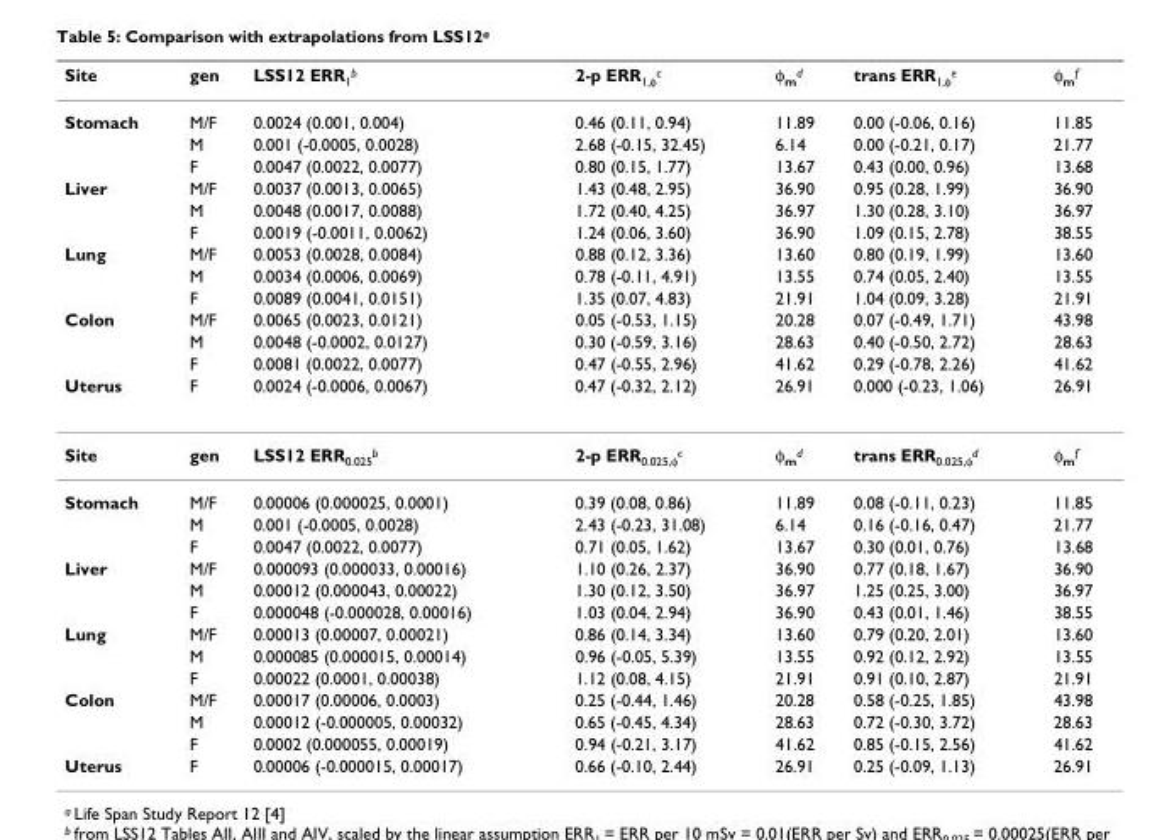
<table><thead><tr><td>Site</td><td>gen</td><td>LSS12 ERR<sub>1</sub><sup>b</sup></td><td>2-p ERR<sub>1,φ</sub><sup>c</sup></td><td>φ<sub>m</sub><sup>d</sup></td><td>trans ERR<sub>1,φ</sub><sup>e</sup></td><td>φ<sub>m</sub><sup>f</sup></td></tr></thead><tbody><tr><td rowspan="3">Stomach</td><td>M/F</td><td>0.0024 (0.001, 0.004)</td><td>0.46 (0.11, 0.94)</td><td>11.89</td><td>0.00 (-0.06, 0.16)</td><td>11.85</td></tr><tr><td>M</td><td>0.001 (-0.0005, 0.0028)</td><td>2.68 (-0.15, 32.45)</td><td>6.14</td><td>0.00 (-0.21, 0.17)</td><td>21.77</td></tr><tr><td>F</td><td>0.0047 (0.0022, 0.0077)</td><td>0.80 (0.15, 1.77)</td><td>13.67</td><td>0.43 (0.00, 0.96)</td><td>13.68</td></tr><tr><td rowspan="3">Liver</td><td>M/F</td><td>0.0037 (0.0013, 0.0065)</td><td>1.43 (0.48, 2.95)</td><td>36.90</td><td>0.95 (0.28, 1.99)</td><td>36.90</td></tr><tr><td>M</td><td>0.0048 (0.0017, 0.0088)</td><td>1.72 (0.40, 4.25)</td><td>36.97</td><td>1.30 (0.28, 3.10)</td><td>36.97</td></tr><tr><td>F</td><td>0.0019 (-0.0011, 0.0062)</td><td>1.24 (0.06, 3.60)</td><td>36.90</td><td>1.09 (0.15, 2.78)</td><td>38.55</td></tr><tr><td rowspan="3">Lung</td><td>M/F</td><td>0.0053 (0.0028, 0.0084)</td><td>0.88 (0.12, 3.36)</td><td>13.60</td><td>0.80 (0.19, 1.99)</td><td>13.60</td></tr><tr><td>M</td><td>0.0034 (0.0006, 0.0069)</td><td>0.78 (-0.11, 4.91)</td><td>13.55</td><td>0.74 (0.05, 2.40)</td><td>13.55</td></tr><tr><td>F</td><td>0.0089 (0.0041, 0.0151)</td><td>1.35 (0.07, 4.83)</td><td>21.91</td><td>1.04 (0.09, 3.28)</td><td>21.91</td></tr><tr><td rowspan="3">Colon</td><td>M/F</td><td>0.0065 (0.0023, 0.0121)</td><td>0.05 (-0.53, 1.15)</td><td>20.28</td><td>0.07 (-0.49, 1.71)</td><td>43.98</td></tr><tr><td>M</td><td>0.0048 (-0.0002, 0.0127)</td><td>0.30 (-0.59, 3.16)</td><td>28.63</td><td>0.40 (-0.50, 2.72)</td><td>28.63</td></tr><tr><td>F</td><td>0.0081 (0.0022, 0.0077)</td><td>0.47 (-0.55, 2.96)</td><td>41.62</td><td>0.29 (-0.78, 2.26)</td><td>41.62</td></tr><tr><td>Uterus</td><td>F</td><td>0.0024 (-0.0006, 0.0067)</td><td>0.47 (-0.32, 2.12)</td><td>26.91</td><td>0.000 (-0.23, 1.06)</td><td>26.91</td></tr><tr><td>Site</td><td>gen</td><td>LSS12 ERR<sub>0.025</sub><sup>b</sup></td><td>2-p ERR<sub>0.025,φ</sub><sup>c</sup></td><td>φ<sub>m</sub><sup>d</sup></td><td>trans ERR<sub>0.025,φ</sub><sup>d</sup></td><td>φ<sub>m</sub><sup>f</sup></td></tr><tr><td rowspan="3">Stomach</td><td>M/F</td><td>0.00006 (0.000025, 0.0001)</td><td>0.39 (0.08, 0.86)</td><td>11.89</td><td>0.08 (-0.11, 0.23)</td><td>11.85</td></tr><tr><td>M</td><td>0.001 (-0.0005, 0.0028)</td><td>2.43 (-0.23, 31.08)</td><td>6.14</td><td>0.16 (-0.16, 0.47)</td><td>21.77</td></tr><tr><td>F</td><td>0.0047 (0.0022, 0.0077)</td><td>0.71 (0.05, 1.62)</td><td>13.67</td><td>0.30 (0.01, 0.76)</td><td>13.68</td></tr><tr><td rowspan="3">Liver</td><td>M/F</td><td>0.000093 (0.000033, 0.00016)</td><td>1.10 (0.26, 2.37)</td><td>36.90</td><td>0.77 (0.18, 1.67)</td><td>36.90</td></tr><tr><td>M</td><td>0.00012 (0.000043, 0.00022)</td><td>1.30 (0.12, 3.50)</td><td>36.97</td><td>1.25 (0.25, 3.00)</td><td>36.97</td></tr><tr><td>F</td><td>0.000048 (-0.000028, 0.00016)</td><td>1.03 (0.04, 2.94)</td><td>36.90</td><td>0.43 (0.01, 1.46)</td><td>38.55</td></tr><tr><td rowspan="3">Lung</td><td>M/F</td><td>0.00013 (0.00007, 0.00021)</td><td>0.86 (0.14, 3.34)</td><td>13.60</td><td>0.79 (0.20, 2.01)</td><td>13.60</td></tr><tr><td>M</td><td>0.000085 (0.000015, 0.00014)</td><td>0.96 (-0.05, 5.39)</td><td>13.55</td><td>0.92 (0.12, 2.92)</td><td>13.55</td></tr><tr><td>F</td><td>0.00022 (0.0001, 0.00038)</td><td>1.12 (0.08, 4.15)</td><td>21.91</td><td>0.91 (0.10, 2.87)</td><td>21.91</td></tr><tr><td rowspan="3">Colon</td><td>M/F</td><td>0.00017 (0.00006, 0.0003)</td><td>0.25 (-0.44, 1.46)</td><td>20.28</td><td>0.58 (-0.25, 1.85)</td><td>43.98</td></tr><tr><td>M</td><td>0.00012 (-0.000005, 0.00032)</td><td>0.65 (-0.45, 4.34)</td><td>28.63</td><td>0.72 (-0.30, 3.72)</td><td>28.63</td></tr><tr><td>F</td><td>0.0002 (0.000055, 0.00019)</td><td>0.94 (-0.21, 3.17)</td><td>41.62</td><td>0.85 (-0.15, 2.56)</td><td>41.62</td></tr><tr><td>Uterus</td><td>F</td><td>0.00006 (-0.000015, 0.00017)</td><td>0.66 (-0.10, 2.44)</td><td>26.91</td><td>0.25 (-0.09, 1.13)</td><td>26.91</td></tr></tbody></table>